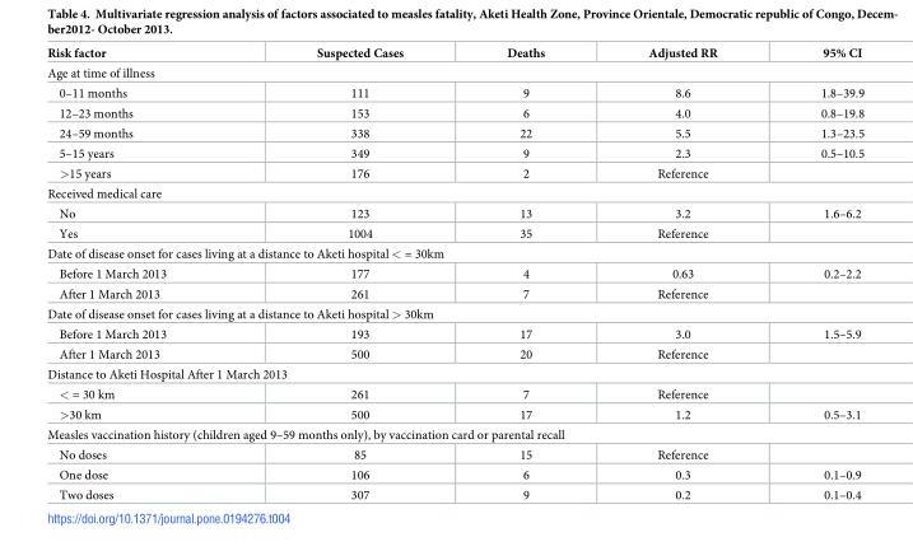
<table><thead><tr><td>Risk factor</td><td>Suspected Cases</td><td>Deaths</td><td>Adjusted RR</td><td>95% CI</td></tr></thead><tbody><tr><td colspan="5">Age at time of illness</td></tr><tr><td>0–11 months</td><td>111</td><td>9</td><td>8.6</td><td>1.8–39.9</td></tr><tr><td>12–23 months</td><td>153</td><td>6</td><td>4.0</td><td>0.8–19.8</td></tr><tr><td>24–59 months</td><td>338</td><td>22</td><td>5.5</td><td>1.3–23.5</td></tr><tr><td>5–15 years</td><td>349</td><td>9</td><td>2.3</td><td>0.5–10.5</td></tr><tr><td>&gt;15 years</td><td>176</td><td>2</td><td>Reference</td><td></td></tr><tr><td colspan="5">Received medical care</td></tr><tr><td>No</td><td>123</td><td>13</td><td>3.2</td><td>1.6–6.2</td></tr><tr><td>Yes</td><td>1004</td><td>35</td><td>Reference</td><td></td></tr><tr><td colspan="5">Date of disease onset for cases living at a distance to Aketi hospital &lt; = 30km</td></tr><tr><td>Before 1 March 2013</td><td>177</td><td>4</td><td>0.63</td><td>0.2–2.2</td></tr><tr><td>After 1 March 2013</td><td>261</td><td>7</td><td>Reference</td><td></td></tr><tr><td colspan="5">Date of disease onset for cases living at a distance to Aketi hospital &gt; 30km</td></tr><tr><td>Before 1 March 2013</td><td>193</td><td>17</td><td>3.0</td><td>1.5–5.9</td></tr><tr><td>After 1 March 2013</td><td>500</td><td>20</td><td>Reference</td><td></td></tr><tr><td colspan="5">Distance to Aketi Hospital After 1 March 2013</td></tr><tr><td>&lt; = 30 km</td><td>261</td><td>7</td><td>Reference</td><td></td></tr><tr><td>&gt;30 km</td><td>500</td><td>17</td><td>1.2</td><td>0.5–3.1</td></tr><tr><td colspan="5">Measles vaccination history (children aged 9–59 months only), by vaccination card or parental recall</td></tr><tr><td>No doses</td><td>85</td><td>15</td><td>Reference</td><td></td></tr><tr><td>One dose</td><td>106</td><td>6</td><td>0.3</td><td>0.1–0.9</td></tr><tr><td>Two doses</td><td>307</td><td>9</td><td>0.2</td><td>0.1–0.4</td></tr></tbody></table>